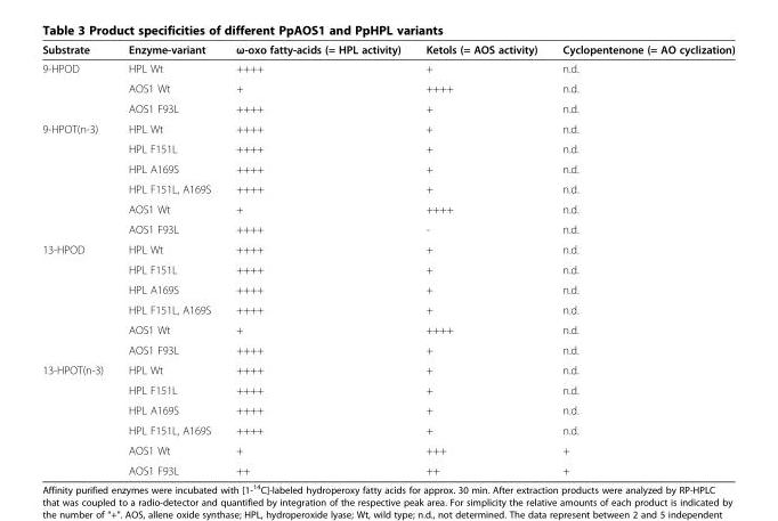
<table><thead><tr><td>Substrate</td><td>Enzyme-variant</td><td>ω-oxo fatty-acids (= HPL activity)</td><td>Ketols (= AOS activity)</td><td>Cyclopentenone (= AO cyclization)</td></tr></thead><tbody><tr><td rowspan="3">9-HPOD</td><td>HPL Wt</td><td>++++</td><td>+</td><td>n.d.</td></tr><tr><td>AOS1 Wt</td><td>+</td><td>++++</td><td>n.d.</td></tr><tr><td>AOS1 F93L</td><td>++++</td><td>+</td><td>n.d.</td></tr><tr><td rowspan="6">9-HPOT(n-3)</td><td>HPL Wt</td><td>++++</td><td>+</td><td>n.d.</td></tr><tr><td>HPL F151L</td><td>++++</td><td>+</td><td>n.d.</td></tr><tr><td>HPL A169S</td><td>++++</td><td>+</td><td>n.d.</td></tr><tr><td>HPL F151L, A169S</td><td>++++</td><td>+</td><td>n.d.</td></tr><tr><td>AOS1 Wt</td><td>+</td><td>++++</td><td>n.d.</td></tr><tr><td>AOS1 F93L</td><td>++++</td><td>-</td><td>n.d.</td></tr><tr><td rowspan="6">13-HPOD</td><td>HPL Wt</td><td>++++</td><td>+</td><td>n.d.</td></tr><tr><td>HPL F151L</td><td>++++</td><td>+</td><td>n.d.</td></tr><tr><td>HPL A169S</td><td>++++</td><td>+</td><td>n.d.</td></tr><tr><td>HPL F151L, A169S</td><td>++++</td><td>+</td><td>n.d.</td></tr><tr><td>AOS1 Wt</td><td>+</td><td>++++</td><td>n.d.</td></tr><tr><td>AOS1 F93L</td><td>++++</td><td>+</td><td>n.d.</td></tr><tr><td rowspan="6">13-HPOT(n-3)</td><td>HPL Wt</td><td>++++</td><td>+</td><td>n.d.</td></tr><tr><td>HPL F151L</td><td>++++</td><td>+</td><td>n.d.</td></tr><tr><td>HPL A169S</td><td>++++</td><td>+</td><td>n.d.</td></tr><tr><td>HPL F151L, A169S</td><td>++++</td><td>+</td><td>n.d.</td></tr><tr><td>AOS1 Wt</td><td>+</td><td>+++</td><td>+</td></tr><tr><td>AOS1 F93L</td><td>++</td><td>++</td><td>+</td></tr></tbody></table>